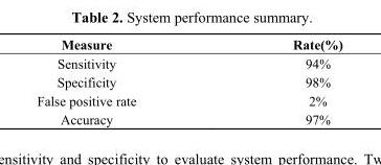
<table><thead><tr><td>Measure</td><td>Rate(%)</td></tr></thead><tbody><tr><td>Sensitivity</td><td>94%</td></tr><tr><td>Specificity</td><td>98%</td></tr><tr><td>False positive rate</td><td>2%</td></tr><tr><td>Accuracy</td><td>97%</td></tr></tbody></table>